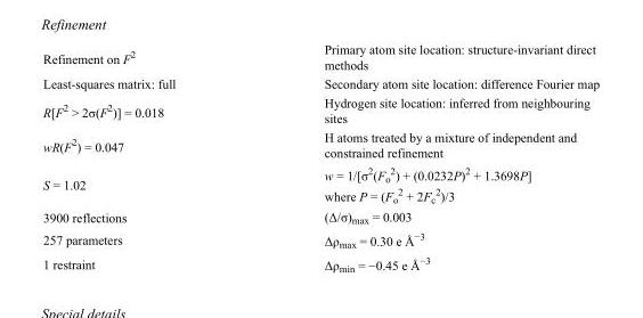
<table><tbody><tr><td>Refinement on F<sup>2</sup></td><td>Primary atom site location: structure-invariant direct methods</td></tr><tr><td>Least-squares matrix: full</td><td>Secondary atom site location: difference Fourier map</td></tr><tr><td>R[F<sup>2</sup> &gt; 2σ(F<sup>2</sup>)] = 0.018</td><td>Hydrogen site location: inferred from neighbouring sites</td></tr><tr><td>wR(F<sup>2</sup>) = 0.047</td><td>H atoms treated by a mixture of independent and constrained refinement</td></tr><tr><td>S = 1.02</td><td>w = 1/[σ<sup>2</sup>(F<sub>o</sub> <sup>2</sup>) + (0.0232P)<sup>2</sup> + 1.3698P] where P = (F<sub>o</sub> <sup>2</sup> + 2F<sub>c</sub> <sup>2</sup>)/3</td></tr><tr><td>3900 reflections</td><td>(Δ/σ)<sub>max</sub> = 0.003</td></tr><tr><td>257 parameters</td><td>Δρ<sub>max</sub> = 0.30 e Å<sup>−3</sup></td></tr><tr><td>1 restraint</td><td>Δρ<sub>min</sub> = −0.45 e Å<sup>−3</sup></td></tr></tbody></table>